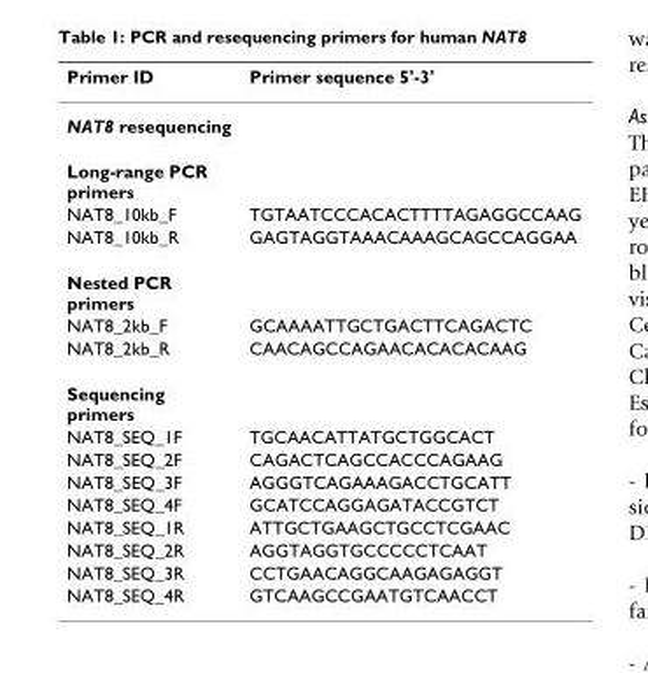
<table><thead><tr><td>Primer ID</td><td>Primer sequence 5&#x27;-3&#x27;</td></tr></thead><tbody><tr><td colspan="2">NAT8 resequencing</td></tr><tr><td colspan="2">Long-range PCR primers</td></tr><tr><td>NAT8_10kb_F</td><td>TGTAATCCCACACTTTTAGAGGCCAAG</td></tr><tr><td>NAT8_10kb_R</td><td>GAGTAGGTAAACAAAGCAGCCAGGAA</td></tr><tr><td colspan="2">Nested PCR primers</td></tr><tr><td>NAT8_2kb_F</td><td>GCAAAATTGCTGACTTCAGACTC</td></tr><tr><td>NAT8_2kb_R</td><td>CAACAGCCAGAACACACACAAG</td></tr><tr><td colspan="2">Sequencing primers</td></tr><tr><td>NAT8_SEQ_1F</td><td>TGCAACATTATGCTGGCACT</td></tr><tr><td>NAT8_SEQ_2F</td><td>CAGACTCAGCCACCCAGAAG</td></tr><tr><td>NAT8_SEQ_3F</td><td>AGGGTCAGAAAGACCTGCATT</td></tr><tr><td>NAT8_SEQ_4F</td><td>GCATCCAGGAGATACCGTCT</td></tr><tr><td>NAT8_SEQ_1R</td><td>ATTGCTGAAGCTGCCTCGAAC</td></tr><tr><td>NAT8_SEQ_2R</td><td>AGGTAGGTGCCCCCTCAAT</td></tr><tr><td>NAT8_SEQ_3R</td><td>CCTGAACAGGCAAGAGAGGT</td></tr><tr><td>NAT8_SEQ_4R</td><td>GTCAAGCCGAATGTCAACCT</td></tr></tbody></table>